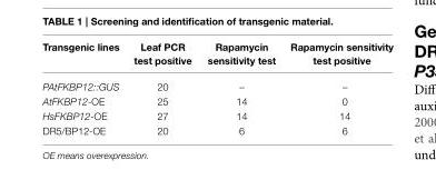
<table><thead><tr><td>Transgenic lines</td><td>Leaf PCR test positive</td><td>Rapamycin sensitivity test</td><td>Rapamycin sensitivity test positive</td></tr></thead><tbody><tr><td>PAtFKBP12::GUS</td><td>20</td><td>–</td><td>–</td></tr><tr><td>AtFKBP12-OE</td><td>25</td><td>14</td><td>0</td></tr><tr><td>HsFKBP12-OE</td><td>27</td><td>14</td><td>14</td></tr><tr><td>DR5/BP12-OE</td><td>20</td><td>6</td><td>6</td></tr></tbody></table>